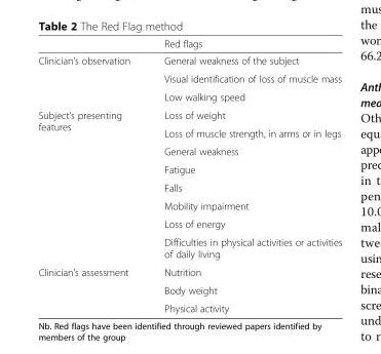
<table><thead><tr><td></td><td>Red flags</td></tr></thead><tbody><tr><td rowspan="3">Clinician’s observation</td><td>General weakness of the subject</td></tr><tr><td>Visual identification of loss of muscle mass</td></tr><tr><td>Low walking speed</td></tr><tr><td rowspan="8">Subject’s presenting features</td><td>Loss of weight</td></tr><tr><td>Loss of muscle strength, in arms or in legs</td></tr><tr><td>General weakness</td></tr><tr><td>Fatigue</td></tr><tr><td>Falls</td></tr><tr><td>Mobility impairment</td></tr><tr><td>Loss of energy</td></tr><tr><td>Difficulties in physical activities or activities of daily living</td></tr><tr><td rowspan="3">Clinician’s assessment</td><td>Nutrition</td></tr><tr><td>Body weight</td></tr><tr><td>Physical activity</td></tr></tbody></table>